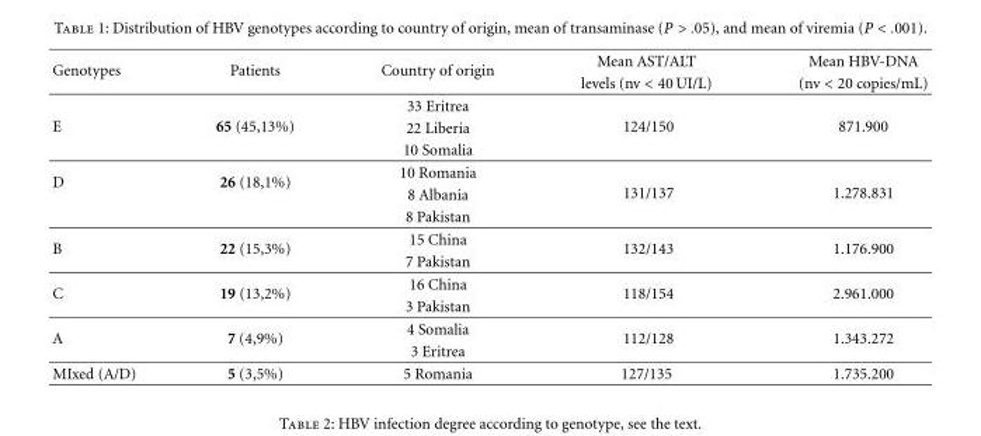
<table><thead><tr><td rowspan="2">Genotypes</td><td rowspan="2">Patients</td><td rowspan="2">Country of origin</td><td rowspan="2">Mean AST/ALT levels (nv &lt; 40 UI/L)</td><td rowspan="2">Mean HBV-DNA (nv &lt; 20 copies/mL)</td></tr><tr></tr></thead><tbody><tr><td rowspan="3">E</td><td rowspan="3">65 (45,13%)</td><td>33 Eritrea</td><td rowspan="3">124/150</td><td rowspan="3">871.900</td></tr><tr><td>22 Liberia</td></tr><tr><td>10 Somalia</td></tr><tr><td rowspan="3">D</td><td rowspan="2">26 (18,1%)</td><td>10 Romania</td><td rowspan="3">131/137</td><td rowspan="3">1.278.831</td></tr><tr><td>8 Albania</td></tr><tr><td></td><td>8 Pakistan</td></tr><tr><td rowspan="2">B</td><td rowspan="2">22 (15,3%)</td><td>15 China</td><td rowspan="2">132/143</td><td rowspan="2">1.176.900</td></tr><tr><td>7 Pakistan</td></tr><tr><td rowspan="2">C</td><td rowspan="2">19 (13,2%)</td><td>16 China</td><td rowspan="2">118/154</td><td rowspan="2">2.961.000</td></tr><tr><td>3 Pakistan</td></tr><tr><td rowspan="2">A</td><td rowspan="2">7 (4,9%)</td><td>4 Somalia</td><td rowspan="2">112/128</td><td rowspan="2">1.343.272</td></tr><tr><td>3 Eritrea</td></tr><tr><td>MIxed (A/D)</td><td>5 (3,5%)</td><td>5 Romania</td><td>127/135</td><td>1.735.200</td></tr></tbody></table>